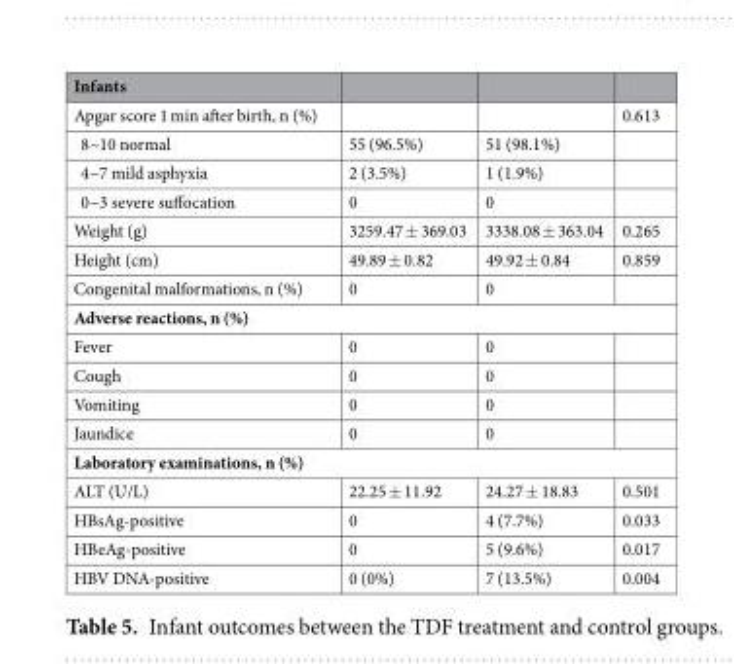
<table><thead><tr><td>Infants</td><td></td><td></td><td></td></tr></thead><tbody><tr><td>Apgar score 1 min after birth, n (%)</td><td></td><td></td><td>0.613</td></tr><tr><td>8~10 normal</td><td>55 (96.5%)</td><td>51 (98.1%)</td><td></td></tr><tr><td>4~7 mild asphyxia</td><td>2 (3.5%)</td><td>1 (1.9%)</td><td></td></tr><tr><td>0~3 severe suffocation</td><td>0</td><td>0</td><td></td></tr><tr><td>Weight (g)</td><td>3259.47 ± 369.03</td><td>3338.08 ± 363.04</td><td>0.265</td></tr><tr><td>Height (cm)</td><td>49.89 ± 0.82</td><td>49.92 ± 0.84</td><td>0.859</td></tr><tr><td>Congenital malformations, n (%)</td><td>0</td><td>0</td><td></td></tr><tr><td colspan="4">Adverse reactions, n (%)</td></tr><tr><td>Fever</td><td>0</td><td>0</td><td></td></tr><tr><td>Cough</td><td>0</td><td>0</td><td></td></tr><tr><td>Vomiting</td><td>0</td><td>0</td><td></td></tr><tr><td>Jaundice</td><td>0</td><td>0</td><td></td></tr><tr><td colspan="4">Laboratory examinations, n (%)</td></tr><tr><td>ALT (U/L)</td><td>22.25 ± 11.92</td><td>24.27 ± 18.83</td><td>0.501</td></tr><tr><td>HBsAg-positive</td><td>0</td><td>4 (7.7%)</td><td>0.033</td></tr><tr><td>HBeAg-positive</td><td>0</td><td>5 (9.6%)</td><td>0.017</td></tr><tr><td>HBV DNA-positive</td><td>0 (0%)</td><td>7 (13.5%)</td><td>0.004</td></tr></tbody></table>